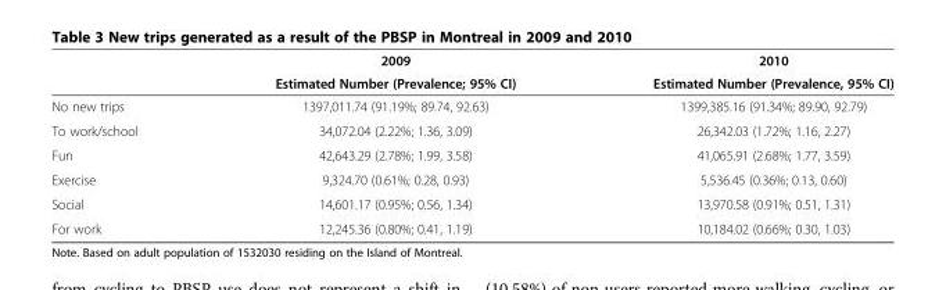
<table><thead><tr><td rowspan="2"></td><td rowspan="2">2009 Estimated Number (Prevalence; 95% CI)</td><td rowspan="2">2010 Estimated Number (Prevalence, 95% CI)</td></tr><tr></tr></thead><tbody><tr><td>No new trips</td><td>1397,011.74 (91.19%; 89.74, 92.63)</td><td>1399,385.16 (91.34%; 89.90, 92.79)</td></tr><tr><td>To work/school</td><td>34,072.04 (2.22%; 1.36, 3.09)</td><td>26,342.03 (1.72%; 1.16, 2.27)</td></tr><tr><td>Fun</td><td>42,643.29 (2.78%; 1.99, 3.58)</td><td>41,065.91 (2.68%; 1.77, 3.59)</td></tr><tr><td>Exercise</td><td>9,324.70 (0.61%; 0.28, 0.93)</td><td>5,536.45 (0.36%; 0.13, 0.60)</td></tr><tr><td>Social</td><td>14,601.17 (0.95%; 0.56, 1.34)</td><td>13,970.58 (0.91%; 0.51, 1.31)</td></tr><tr><td>For work</td><td>12,245.36 (0.80%; 0.41, 1.19)</td><td>10,184.02 (0.66%; 0.30, 1.03)</td></tr></tbody></table>